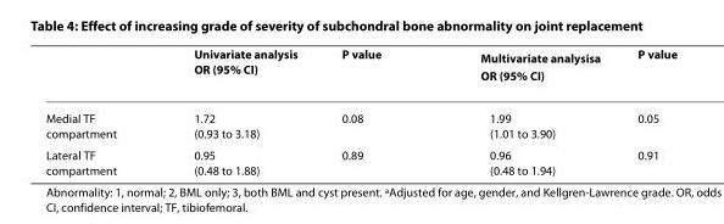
<table><thead><tr><td></td><td>Univariate analysis OR (95% CI)</td><td>P value</td><td>Multivariate analysis<sup>a</sup> OR (95% CI)</td><td>P value</td></tr></thead><tbody><tr><td>Medial TF compartment</td><td>1.72 (0.93 to 3.18)</td><td>0.08</td><td>1.99 (1.01 to 3.90)</td><td>0.05</td></tr><tr><td>Lateral TF compartment</td><td>0.95 (0.48 to 1.88)</td><td>0.89</td><td>0.96 (0.48 to 1.94)</td><td>0.91</td></tr></tbody></table>